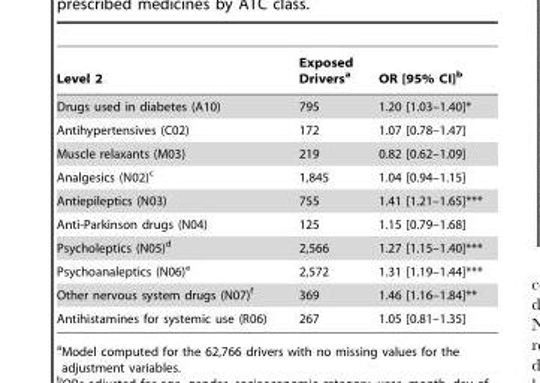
<table><thead><tr><td>Level 2</td><td>Exposed Drivers<sup>a</sup></td><td>OR [95% CI]<sup>b</sup></td></tr></thead><tbody><tr><td>Drugs used in diabetes (A10)</td><td>795</td><td>1.20 [1.03–1.40]*</td></tr><tr><td>Antihypertensives (C02)</td><td>172</td><td>1.07 [0.78–1.47]</td></tr><tr><td>Muscle relaxants (M03)</td><td>219</td><td>0.82 [0.62–1.09]</td></tr><tr><td>Analgesics (N02)<sup>c</sup></td><td>1,845</td><td>1.04 [0.94–1.15]</td></tr><tr><td>Antiepileptics (N03)</td><td>755</td><td>1.41 [1.21–1.65]***</td></tr><tr><td>Anti-Parkinson drugs (N04)</td><td>125</td><td>1.15 [0.79–1.68]</td></tr><tr><td>Psycholeptics (N05)<sup>d</sup></td><td>2,566</td><td>1.27 [1.15–1.40]***</td></tr><tr><td>Psychoanaleptics (N06)<sup>e</sup></td><td>2,572</td><td>1.31 [1.19–1.44]***</td></tr><tr><td>Other nervous system drugs (N07)<sup>f</sup></td><td>369</td><td>1.46 [1.16–1.84]**</td></tr><tr><td>Antihistamines for systemic use (R06)</td><td>267</td><td>1.05 [0.81–1.35]</td></tr></tbody></table>